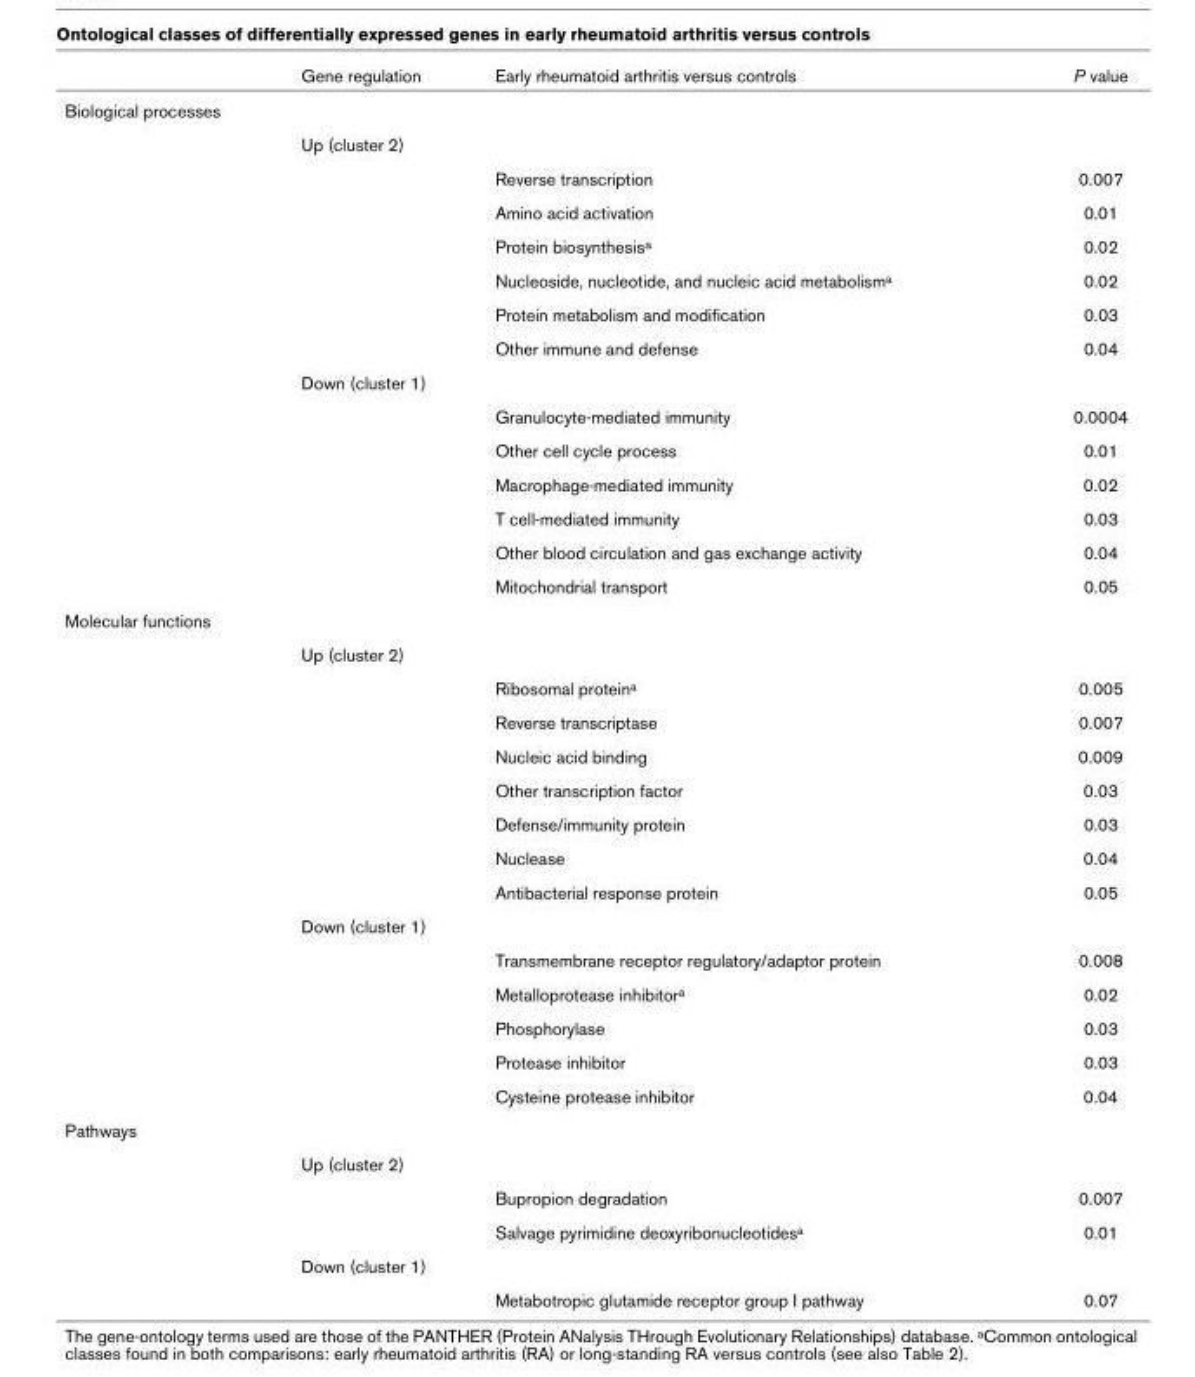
<table><thead><tr><td></td><td>Gene regulation</td><td>Early rheumatoid arthritis versus controls</td><td>P value</td></tr></thead><tbody><tr><td colspan="4">Biological processes</td></tr><tr><td></td><td>Up (cluster 2)</td><td></td><td></td></tr><tr><td></td><td></td><td>Reverse transcription</td><td>0.007</td></tr><tr><td></td><td></td><td>Amino acid activation</td><td>0.01</td></tr><tr><td></td><td></td><td>Protein biosynthesis<sup>a</sup></td><td>0.02</td></tr><tr><td></td><td></td><td>Nucleoside, nucleotide, and nucleic acid metabolism<sup>a</sup></td><td>0.02</td></tr><tr><td></td><td></td><td>Protein metabolism and modification</td><td>0.03</td></tr><tr><td></td><td></td><td>Other immune and defense</td><td>0.04</td></tr><tr><td></td><td>Down (cluster 1)</td><td></td><td></td></tr><tr><td></td><td></td><td>Granulocyte-mediated immunity</td><td>0.0004</td></tr><tr><td></td><td></td><td>Other cell cycle process</td><td>0.01</td></tr><tr><td></td><td></td><td>Macrophage-mediated immunity</td><td>0.02</td></tr><tr><td></td><td></td><td>T cell-mediated immunity</td><td>0.03</td></tr><tr><td></td><td></td><td>Other blood circulation and gas exchange activity</td><td>0.04</td></tr><tr><td></td><td></td><td>Mitochondrial transport</td><td>0.05</td></tr><tr><td colspan="4">Molecular functions</td></tr><tr><td></td><td>Up (cluster 2)</td><td></td><td></td></tr><tr><td></td><td></td><td>Ribosomal protein<sup>a</sup></td><td>0.005</td></tr><tr><td></td><td></td><td>Reverse transcriptase</td><td>0.007</td></tr><tr><td></td><td></td><td>Nucleic acid binding</td><td>0.009</td></tr><tr><td></td><td></td><td>Other transcription factor</td><td>0.03</td></tr><tr><td></td><td></td><td>Defense/immunity protein</td><td>0.03</td></tr><tr><td></td><td></td><td>Nuclease</td><td>0.04</td></tr><tr><td></td><td></td><td>Antibacterial response protein</td><td>0.05</td></tr><tr><td></td><td>Down (cluster 1)</td><td></td><td></td></tr><tr><td></td><td></td><td>Transmembrane receptor regulatory/adaptor protein</td><td>0.008</td></tr><tr><td></td><td></td><td>Metalloprotease inhibitor<sup>a</sup></td><td>0.02</td></tr><tr><td></td><td></td><td>Phosphorylase</td><td>0.03</td></tr><tr><td></td><td></td><td>Protease inhibitor</td><td>0.03</td></tr><tr><td></td><td></td><td>Cysteine protease inhibitor</td><td>0.04</td></tr><tr><td colspan="4">Pathways</td></tr><tr><td></td><td>Up (cluster 2)</td><td></td><td></td></tr><tr><td></td><td></td><td>Bupropion degradation</td><td>0.007</td></tr><tr><td></td><td></td><td>Salvage pyrimidine deoxyribonucleotides<sup>a</sup></td><td>0.01</td></tr><tr><td></td><td>Down (cluster 1)</td><td></td><td></td></tr><tr><td></td><td></td><td>Metabotropic glutamide receptor group I pathway</td><td>0.07</td></tr></tbody></table>